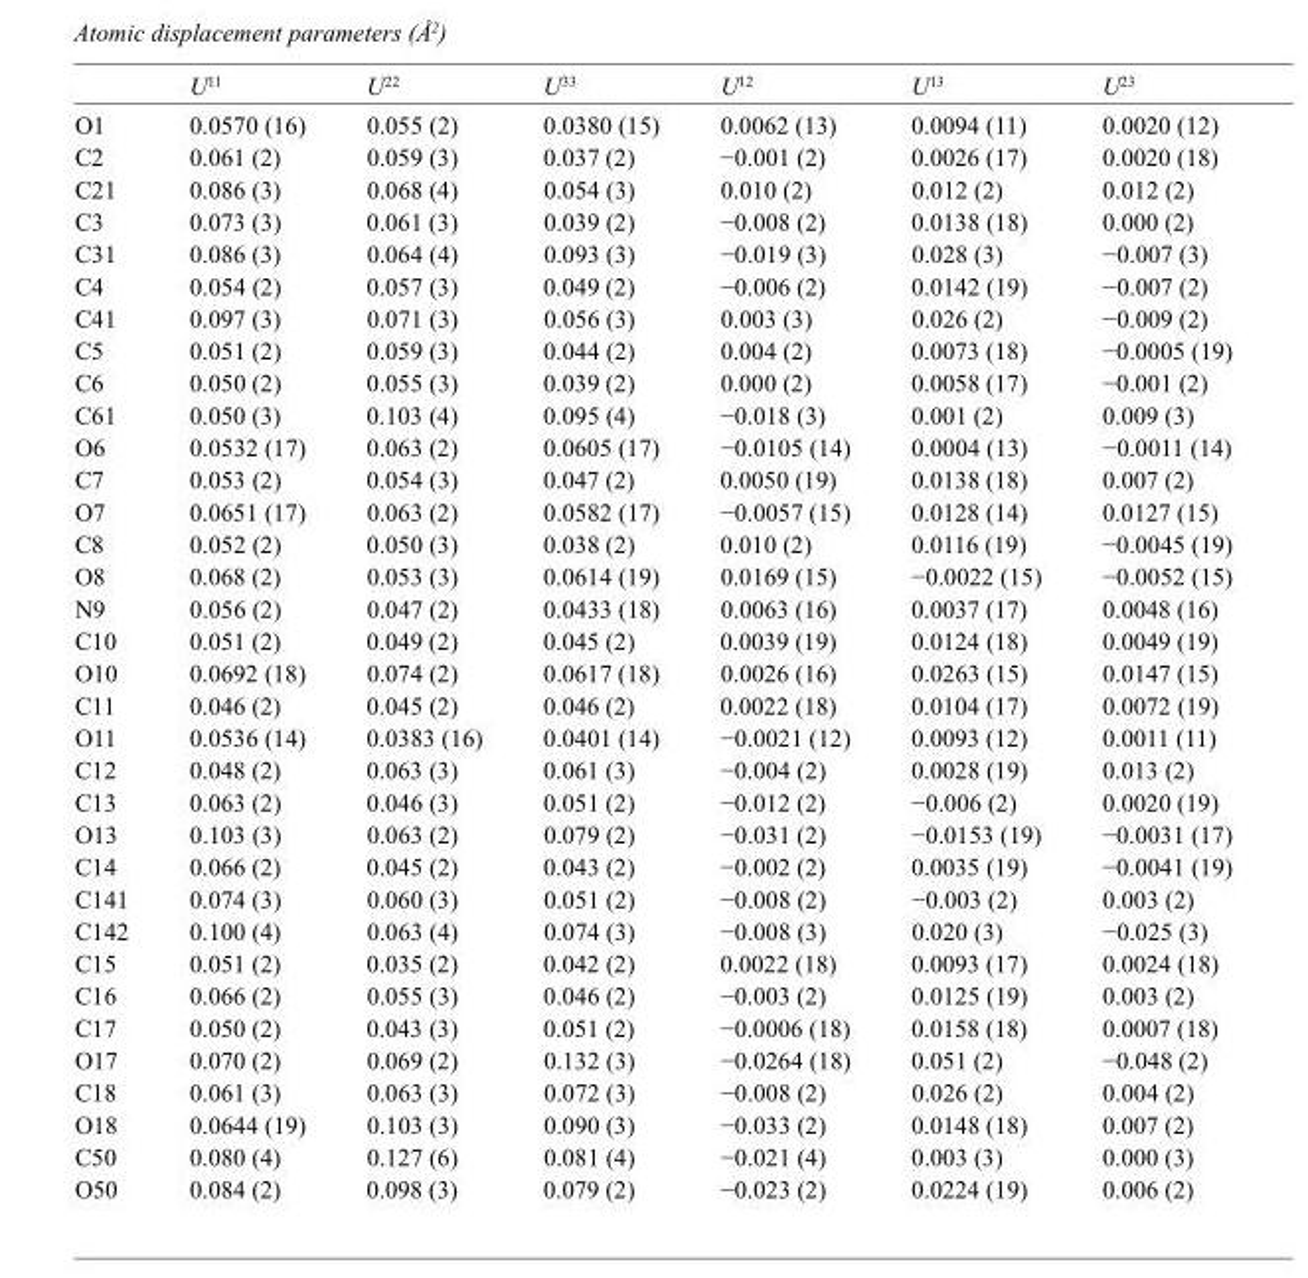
<table><thead><tr><td></td><td>U<sup>11</sup></td><td>U<sup>22</sup></td><td>U<sup>33</sup></td><td>U<sup>12</sup></td><td>U<sup>13</sup></td><td>U<sup>23</sup></td></tr></thead><tbody><tr><td>O1</td><td>0.0570 (16)</td><td>0.055 (2)</td><td>0.0380 (15)</td><td>0.0062 (13)</td><td>0.0094 (11)</td><td>0.0020 (12)</td></tr><tr><td>C2</td><td>0.061 (2)</td><td>0.059 (3)</td><td>0.037 (2)</td><td>−0.001 (2)</td><td>0.0026 (17)</td><td>0.0020 (18)</td></tr><tr><td>C21</td><td>0.086 (3)</td><td>0.068 (4)</td><td>0.054 (3)</td><td>0.010 (2)</td><td>0.012 (2)</td><td>0.012 (2)</td></tr><tr><td>C3</td><td>0.073 (3)</td><td>0.061 (3)</td><td>0.039 (2)</td><td>−0.008 (2)</td><td>0.0138 (18)</td><td>0.000 (2)</td></tr><tr><td>C31</td><td>0.086 (3)</td><td>0.064 (4)</td><td>0.093 (3)</td><td>−0.019 (3)</td><td>0.028 (3)</td><td>−0.007 (3)</td></tr><tr><td>C4</td><td>0.054 (2)</td><td>0.057 (3)</td><td>0.049 (2)</td><td>−0.006 (2)</td><td>0.0142 (19)</td><td>−0.007 (2)</td></tr><tr><td>C41</td><td>0.097 (3)</td><td>0.071 (3)</td><td>0.056 (3)</td><td>0.003 (3)</td><td>0.026 (2)</td><td>−0.009 (2)</td></tr><tr><td>C5</td><td>0.051 (2)</td><td>0.059 (3)</td><td>0.044 (2)</td><td>0.004 (2)</td><td>0.0073 (18)</td><td>−0.0005 (19)</td></tr><tr><td>C6</td><td>0.050 (2)</td><td>0.055 (3)</td><td>0.039 (2)</td><td>0.000 (2)</td><td>0.0058 (17)</td><td>−0.001 (2)</td></tr><tr><td>C61</td><td>0.050 (3)</td><td>0.103 (4)</td><td>0.095 (4)</td><td>−0.018 (3)</td><td>0.001 (2)</td><td>0.009 (3)</td></tr><tr><td>O6</td><td>0.0532 (17)</td><td>0.063 (2)</td><td>0.0605 (17)</td><td>−0.0105 (14)</td><td>0.0004 (13)</td><td>−0.0011 (14)</td></tr><tr><td>C7</td><td>0.053 (2)</td><td>0.054 (3)</td><td>0.047 (2)</td><td>0.0050 (19)</td><td>0.0138 (18)</td><td>0.007 (2)</td></tr><tr><td>O7</td><td>0.0651 (17)</td><td>0.063 (2)</td><td>0.0582 (17)</td><td>−0.0057 (15)</td><td>0.0128 (14)</td><td>0.0127 (15)</td></tr><tr><td>C8</td><td>0.052 (2)</td><td>0.050 (3)</td><td>0.038 (2)</td><td>0.010 (2)</td><td>0.0116 (19)</td><td>−0.0045 (19)</td></tr><tr><td>O8</td><td>0.068 (2)</td><td>0.053 (3)</td><td>0.0614 (19)</td><td>0.0169 (15)</td><td>−0.0022 (15)</td><td>−0.0052 (15)</td></tr><tr><td>N9</td><td>0.056 (2)</td><td>0.047 (2)</td><td>0.0433 (18)</td><td>0.0063 (16)</td><td>0.0037 (17)</td><td>0.0048 (16)</td></tr><tr><td>C10</td><td>0.051 (2)</td><td>0.049 (2)</td><td>0.045 (2)</td><td>0.0039 (19)</td><td>0.0124 (18)</td><td>0.0049 (19)</td></tr><tr><td>O10</td><td>0.0692 (18)</td><td>0.074 (2)</td><td>0.0617 (18)</td><td>0.0026 (16)</td><td>0.0263 (15)</td><td>0.0147 (15)</td></tr><tr><td>C11</td><td>0.046 (2)</td><td>0.045 (2)</td><td>0.046 (2)</td><td>0.0022 (18)</td><td>0.0104 (17)</td><td>0.0072 (19)</td></tr><tr><td>O11</td><td>0.0536 (14)</td><td>0.0383 (16)</td><td>0.0401 (14)</td><td>−0.0021 (12)</td><td>0.0093 (12)</td><td>0.0011 (11)</td></tr><tr><td>C12</td><td>0.048 (2)</td><td>0.063 (3)</td><td>0.061 (3)</td><td>−0.004 (2)</td><td>0.0028 (19)</td><td>0.013 (2)</td></tr><tr><td>C13</td><td>0.063 (2)</td><td>0.046 (3)</td><td>0.051 (2)</td><td>−0.012 (2)</td><td>−0.006 (2)</td><td>0.0020 (19)</td></tr><tr><td>O13</td><td>0.103 (3)</td><td>0.063 (2)</td><td>0.079 (2)</td><td>−0.031 (2)</td><td>−0.0153 (19)</td><td>−0.0031 (17)</td></tr><tr><td>C14</td><td>0.066 (2)</td><td>0.045 (2)</td><td>0.043 (2)</td><td>−0.002 (2)</td><td>0.0035 (19)</td><td>−0.0041 (19)</td></tr><tr><td>C141</td><td>0.074 (3)</td><td>0.060 (3)</td><td>0.051 (2)</td><td>−0.008 (2)</td><td>−0.003 (2)</td><td>0.003 (2)</td></tr><tr><td>C142</td><td>0.100 (4)</td><td>0.063 (4)</td><td>0.074 (3)</td><td>−0.008 (3)</td><td>0.020 (3)</td><td>−0.025 (3)</td></tr><tr><td>C15</td><td>0.051 (2)</td><td>0.035 (2)</td><td>0.042 (2)</td><td>0.0022 (18)</td><td>0.0093 (17)</td><td>0.0024 (18)</td></tr><tr><td>C16</td><td>0.066 (2)</td><td>0.055 (3)</td><td>0.046 (2)</td><td>−0.003 (2)</td><td>0.0125 (19)</td><td>0.003 (2)</td></tr><tr><td>C17</td><td>0.050 (2)</td><td>0.043 (3)</td><td>0.051 (2)</td><td>−0.0006 (18)</td><td>0.0158 (18)</td><td>0.0007 (18)</td></tr><tr><td>O17</td><td>0.070 (2)</td><td>0.069 (2)</td><td>0.132 (3)</td><td>−0.0264 (18)</td><td>0.051 (2)</td><td>−0.048 (2)</td></tr><tr><td>C18</td><td>0.061 (3)</td><td>0.063 (3)</td><td>0.072 (3)</td><td>−0.008 (2)</td><td>0.026 (2)</td><td>0.004 (2)</td></tr><tr><td>O18</td><td>0.0644 (19)</td><td>0.103 (3)</td><td>0.090 (3)</td><td>−0.033 (2)</td><td>0.0148 (18)</td><td>0.007 (2)</td></tr><tr><td>C50</td><td>0.080 (4)</td><td>0.127 (6)</td><td>0.081 (4)</td><td>−0.021 (4)</td><td>0.003 (3)</td><td>0.000 (3)</td></tr><tr><td>O50</td><td>0.084 (2)</td><td>0.098 (3)</td><td>0.079 (2)</td><td>−0.023 (2)</td><td>0.0224 (19)</td><td>0.006 (2)</td></tr></tbody></table>